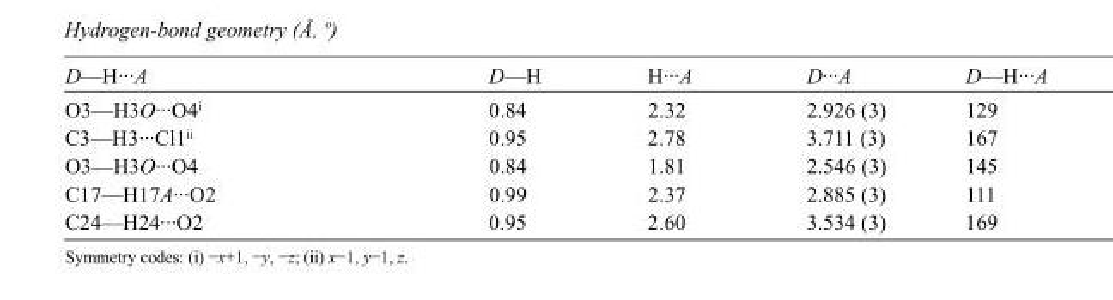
<table><tbody><tr><td>D—H···A</td><td>D—H</td><td>H···A</td><td>D···A</td><td>D—H···A</td></tr><tr><td>O3—H3O···O4<sup>i</sup></td><td>0.84</td><td>2.32</td><td>2.926 (3)</td><td>129</td></tr><tr><td>C3—H3···Cl1<sup>ii</sup></td><td>0.95</td><td>2.78</td><td>3.711 (3)</td><td>167</td></tr><tr><td>O3—H3O···O4</td><td>0.84</td><td>1.81</td><td>2.546 (3)</td><td>145</td></tr><tr><td>C17—H17A···O2</td><td>0.99</td><td>2.37</td><td>2.885 (3)</td><td>111</td></tr><tr><td>C24—H24···O2</td><td>0.95</td><td>2.60</td><td>3.534 (3)</td><td>169</td></tr></tbody></table>